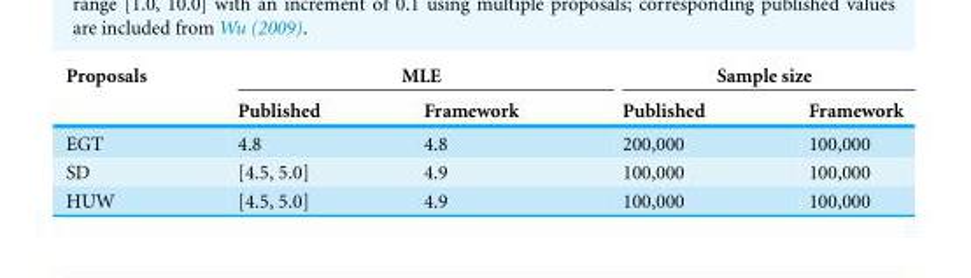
<table><thead><tr><td rowspan="2">Proposals</td><td colspan="2">MLE</td><td colspan="2">Sample size</td></tr><tr><td>Published</td><td>Framework</td><td>Published</td><td>Framework</td></tr></thead><tbody><tr><td>EGT</td><td>4.8</td><td>4.8</td><td>200,000</td><td>100,000</td></tr><tr><td>SD</td><td>[4.5, 5.0]</td><td>4.9</td><td>100,000</td><td>100,000</td></tr><tr><td>HUW</td><td>[4.5, 5.0]</td><td>4.9</td><td>100,000</td><td>100,000</td></tr></tbody></table>